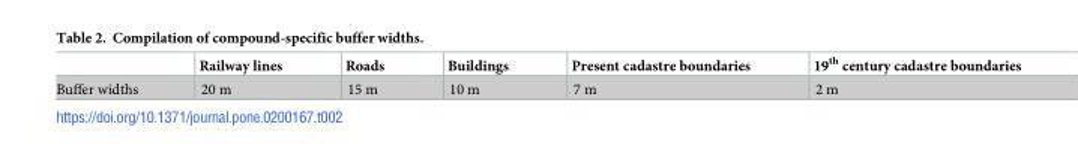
<table><thead><tr><td></td><td>Railway lines</td><td>Roads</td><td>Buildings</td><td>Present cadastre boundaries</td><td>19<sup>th</sup> century cadastre boundaries</td></tr></thead><tbody><tr><td>Buffer widths</td><td>20 m</td><td>15 m</td><td>10 m</td><td>7 m</td><td>2 m</td></tr></tbody></table>